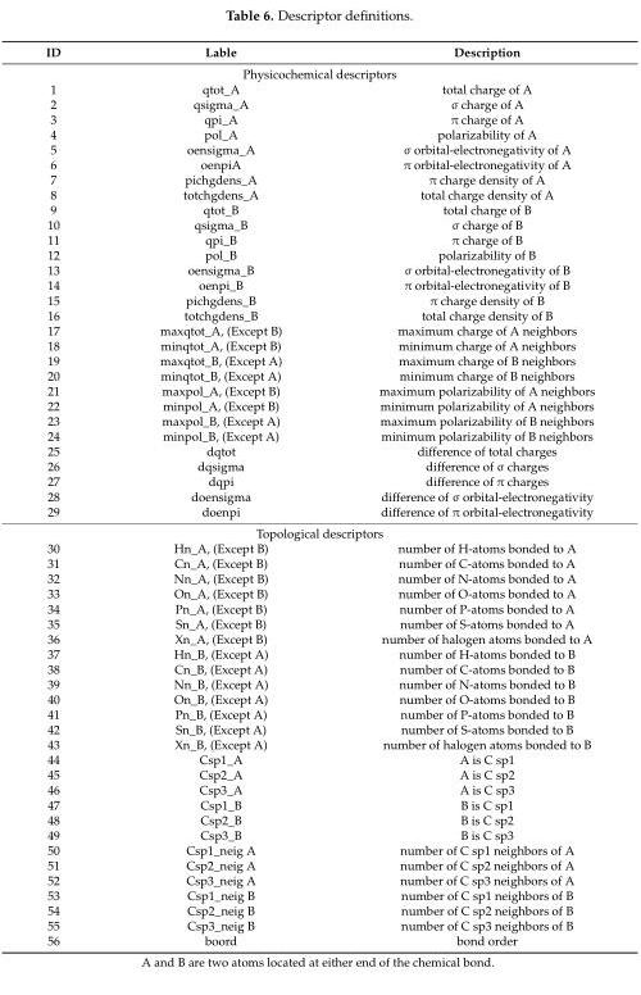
<table><thead><tr><td>ID</td><td>Lable</td><td>Description</td></tr></thead><tbody><tr><td colspan="3">Physicochemical descriptors</td></tr><tr><td>1</td><td>qtot_A</td><td>total charge of A</td></tr><tr><td>2</td><td>qsigma_A</td><td>σ charge of A</td></tr><tr><td>3</td><td>qpi_A</td><td>π charge of A</td></tr><tr><td>4</td><td>pol_A</td><td>polarizability of A</td></tr><tr><td>5</td><td>oensigma_A</td><td>σ orbital-electronegativity of A</td></tr><tr><td>6</td><td>oenpiA</td><td>π orbital-electronegativity of A</td></tr><tr><td>7</td><td>pichgdens_A</td><td>π charge density of A</td></tr><tr><td>8</td><td>totchgdens_A</td><td>total charge density of A</td></tr><tr><td>9</td><td>qtot_B</td><td>total charge of B</td></tr><tr><td>10</td><td>qsigma_B</td><td>σ charge of B</td></tr><tr><td>11</td><td>qpi_B</td><td>π charge of B</td></tr><tr><td>12</td><td>pol_B</td><td>polarizability of B</td></tr><tr><td>13</td><td>oensigma_B</td><td>σ orbital-electronegativity of B</td></tr><tr><td>14</td><td>oenpi_B</td><td>π orbital-electronegativity of B</td></tr><tr><td>15</td><td>pichgdens_B</td><td>π charge density of B</td></tr><tr><td>16</td><td>totchgdens_B</td><td>total charge density of B</td></tr><tr><td>17</td><td>maxqtot_A, (Except B)</td><td>maximum charge of A neighbors</td></tr><tr><td>18</td><td>minqtot_A, (Except B)</td><td>minimum charge of A neighbors</td></tr><tr><td>19</td><td>maxqtot_B, (Except A)</td><td>maximum charge of B neighbors</td></tr><tr><td>20</td><td>minqtot_B, (Except A)</td><td>minimum charge of B neighbors</td></tr><tr><td>21</td><td>maxpol_A, (Except B)</td><td>maximum polarizability of A neighbors</td></tr><tr><td>22</td><td>minpol_A, (Except B)</td><td>minimum polarizability of A neighbors</td></tr><tr><td>23</td><td>maxpol_B, (Except A)</td><td>maximum polarizability of B neighbors</td></tr><tr><td>24</td><td>minpol_B, (Except A)</td><td>minimum polarizability of B neighbors</td></tr><tr><td>25</td><td>dqtot</td><td>difference of total charges</td></tr><tr><td>26</td><td>dqsigma</td><td>difference of σ charges</td></tr><tr><td>27</td><td>dqpi</td><td>difference of π charges</td></tr><tr><td>28</td><td>doensigma</td><td>difference of σ orbital-electronegativity</td></tr><tr><td>29</td><td>doenpi</td><td>difference of π orbital-electronegativity</td></tr><tr><td colspan="3">Topological descriptors</td></tr><tr><td>30</td><td>Hn_A, (Except B)</td><td>number of H-atoms bonded to A</td></tr><tr><td>31</td><td>Cn_A, (Except B)</td><td>number of C-atoms bonded to A</td></tr><tr><td>32</td><td>Nn_A, (Except B)</td><td>number of N-atoms bonded to A</td></tr><tr><td>33</td><td>On_A, (Except B)</td><td>number of O-atoms bonded to A</td></tr><tr><td>34</td><td>Pn_A, (Except B)</td><td>number of P-atoms bonded to A</td></tr><tr><td>35</td><td>Sn_A, (Except B)</td><td>number of S-atoms bonded to A</td></tr><tr><td>36</td><td>Xn_A, (Except B)</td><td>number of halogen atoms bonded to A</td></tr><tr><td>37</td><td>Hn_B, (Except A)</td><td>number of H-atoms bonded to B</td></tr><tr><td>38</td><td>Cn_B, (Except A)</td><td>number of C-atoms bonded to B</td></tr><tr><td>39</td><td>Nn_B, (Except A)</td><td>number of N-atoms bonded to B</td></tr><tr><td>40</td><td>On_B, (Except A)</td><td>number of O-atoms bonded to B</td></tr><tr><td>41</td><td>Pn_B, (Except A)</td><td>number of P-atoms bonded to B</td></tr><tr><td>42</td><td>Sn_B, (Except A)</td><td>number of S-atoms bonded to B</td></tr><tr><td>43</td><td>Xn_B, (Except A)</td><td>number of halogen atoms bonded to B</td></tr><tr><td>44</td><td>Csp1_A</td><td>A is C sp1</td></tr><tr><td>45</td><td>Csp2_A</td><td>A is C sp2</td></tr><tr><td>46</td><td>Csp3_A</td><td>A is C sp3</td></tr><tr><td>47</td><td>Csp1_B</td><td>B is C sp1</td></tr><tr><td>48</td><td>Csp2_B</td><td>B is C sp2</td></tr><tr><td>49</td><td>Csp3_B</td><td>B is C sp3</td></tr><tr><td>50</td><td>Csp1_neig A</td><td>number of C sp1 neighbors of A</td></tr><tr><td>51</td><td>Csp2_neig A</td><td>number of C sp2 neighbors of A</td></tr><tr><td>52</td><td>Csp3_neig A</td><td>number of C sp3 neighbors of A</td></tr><tr><td>53</td><td>Csp1_neig B</td><td>number of C sp1 neighbors of B</td></tr><tr><td>54</td><td>Csp2_neig B</td><td>number of C sp2 neighbors of B</td></tr><tr><td>55</td><td>Csp3_neig B</td><td>number of C sp3 neighbors of B</td></tr><tr><td>56</td><td>boord</td><td>bond order</td></tr></tbody></table>